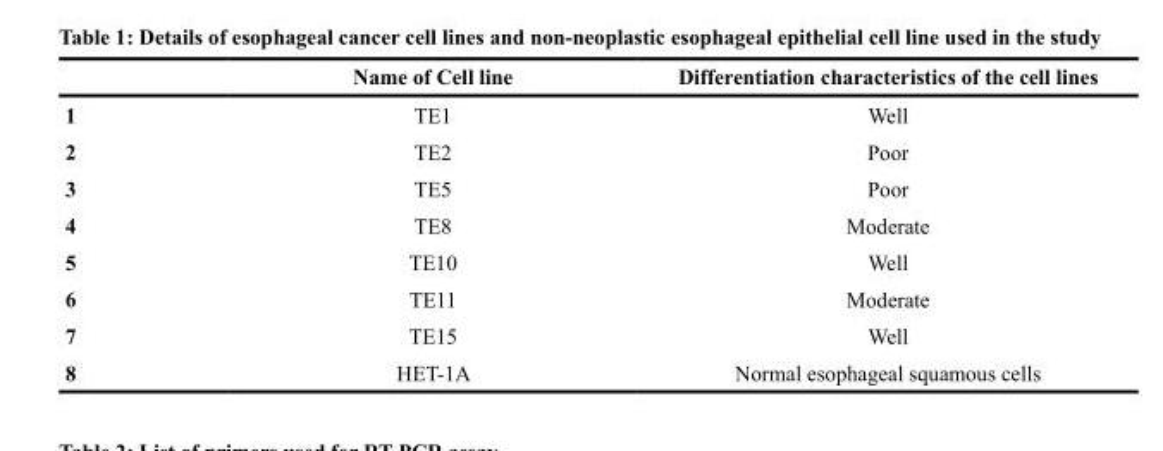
<table><thead><tr><td></td><td>Name of Cell line</td><td>Differentiation characteristics of the cell lines</td></tr></thead><tbody><tr><td>1</td><td>TE1</td><td>Well</td></tr><tr><td>2</td><td>TE2</td><td>Poor</td></tr><tr><td>3</td><td>TE5</td><td>Poor</td></tr><tr><td>4</td><td>TE8</td><td>Moderate</td></tr><tr><td>5</td><td>TE10</td><td>Well</td></tr><tr><td>6</td><td>TE11</td><td>Moderate</td></tr><tr><td>7</td><td>TE15</td><td>Well</td></tr><tr><td>8</td><td>HET-1A</td><td>Normal esophageal squamous cells</td></tr></tbody></table>